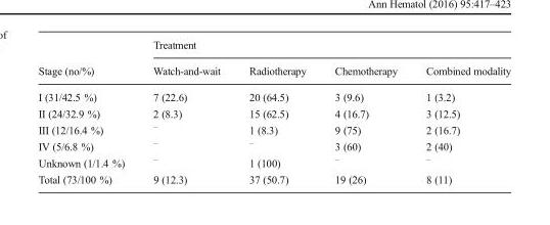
<table><thead><tr><td rowspan="2">Stage (no/%)</td><td colspan="4">Treatment</td></tr><tr><td>Watch-and-wait</td><td>Radiotherapy</td><td>Chemotherapy</td><td>Combined modality</td></tr></thead><tbody><tr><td>I (31/42.5 %)</td><td>7 (22.6)</td><td>20 (64.5)</td><td>3 (9.6)</td><td>1 (3.2)</td></tr><tr><td>II (24/32.9 %)</td><td>2 (8.3)</td><td>15 (62.5)</td><td>4 (16.7)</td><td>3 (12.5)</td></tr><tr><td>III (12/16.4 %)</td><td><sup>–</sup></td><td>1 (8.3)</td><td>9 (75)</td><td>2 (16.7)</td></tr><tr><td>IV (5/6.8 %)</td><td><sup>–</sup></td><td><sup>–</sup></td><td>3 (60)</td><td>2 (40)</td></tr><tr><td>Unknown (1/1.4 %)</td><td><sup>–</sup></td><td>1 (100)</td><td><sup>–</sup></td><td><sup>–</sup></td></tr><tr><td>Total (73/100 %)</td><td>9 (12.3)</td><td>37 (50.7)</td><td>19 (26)</td><td>8 (11)</td></tr></tbody></table>